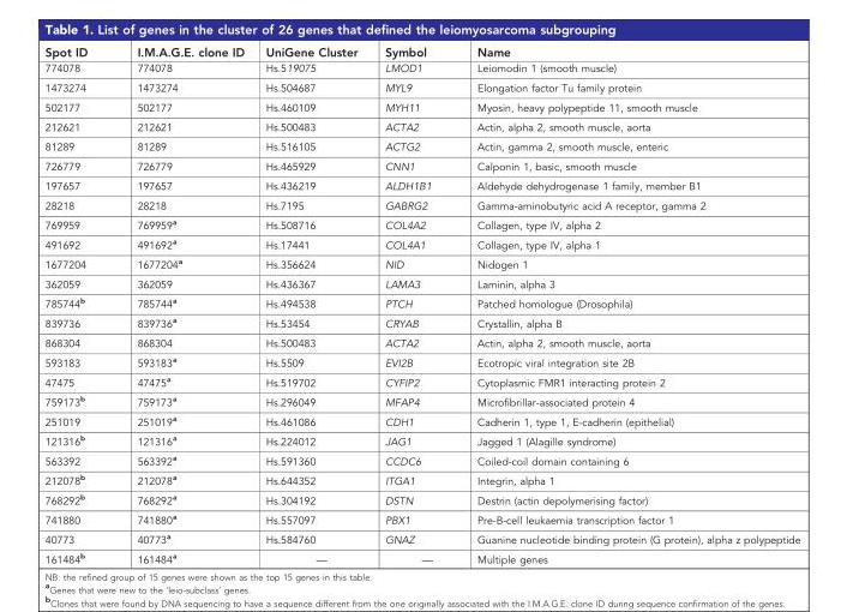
<table><thead><tr><td>Spot ID</td><td>I.M.A.G.E. clone ID</td><td>UniGene Cluster</td><td>Symbol</td><td>Name</td></tr></thead><tbody><tr><td>774078</td><td>774078</td><td>Hs.519075</td><td>LMOD1</td><td>Leiomodin 1 (smooth muscle)</td></tr><tr><td>1473274</td><td>1473274</td><td>Hs.504687</td><td>MYL9</td><td>Elongation factor Tu family protein</td></tr><tr><td>502177</td><td>502177</td><td>Hs.460109</td><td>MYH11</td><td>Myosin, heavy polypeptide 11, smooth muscle</td></tr><tr><td>212621</td><td>212621</td><td>Hs.500483</td><td>ACTA2</td><td>Actin, alpha 2, smooth muscle, aorta</td></tr><tr><td>81289</td><td>81289</td><td>Hs.516105</td><td>ACTG2</td><td>Actin, gamma 2, smooth muscle, enteric</td></tr><tr><td>726779</td><td>726779</td><td>Hs.465929</td><td>CNN1</td><td>Calponin 1, basic, smooth muscle</td></tr><tr><td>197657</td><td>197657</td><td>Hs.436219</td><td>ALDH1B1</td><td>Aldehyde dehydrogenase 1 family, member B1</td></tr><tr><td>28218</td><td>28218</td><td>Hs.7195</td><td>GABRG2</td><td>Gamma-aminobutyric acid A receptor, gamma 2</td></tr><tr><td>769959</td><td>769959<sup>a</sup></td><td>Hs.508716</td><td>COL4A2</td><td>Collagen, type IV, alpha 2</td></tr><tr><td>491692</td><td>491692<sup>a</sup></td><td>Hs.17441</td><td>COL4A1</td><td>Collagen, type IV, alpha 1</td></tr><tr><td>1677204</td><td>1677204<sup>a</sup></td><td>Hs.356624</td><td>NID</td><td>Nidogen 1</td></tr><tr><td>362059</td><td>362059</td><td>Hs.436367</td><td>LAMA3</td><td>Laminin, alpha 3</td></tr><tr><td>785744<sup>b</sup></td><td>785744<sup>a</sup></td><td>Hs.494538</td><td>PTCH</td><td>Patched homologue (Drosophila)</td></tr><tr><td>839736</td><td>839736<sup>a</sup></td><td>Hs.53454</td><td>CRYAB</td><td>Crystallin, alpha B</td></tr><tr><td>868304</td><td>868304</td><td>Hs.500483</td><td>ACTA2</td><td>Actin, alpha 2, smooth muscle, aorta</td></tr><tr><td>593183</td><td>593183<sup>a</sup></td><td>Hs.5509</td><td>EVI2B</td><td>Ecotropic viral integration site 2B</td></tr><tr><td>47475</td><td>47475<sup>a</sup></td><td>Hs.519702</td><td>CYFIP2</td><td>Cytoplasmic FMR1 interacting protein 2</td></tr><tr><td>759173<sup>b</sup></td><td>759173<sup>a</sup></td><td>Hs.296049</td><td>MFAP4</td><td>Microfibrillar-associated protein 4</td></tr><tr><td>251019</td><td>251019<sup>a</sup></td><td>Hs.461086</td><td>CDH1</td><td>Cadherin 1, type 1, E-cadherin (epithelial)</td></tr><tr><td>121316<sup>b</sup></td><td>121316<sup>a</sup></td><td>Hs.224012</td><td>JAG1</td><td>Jagged 1 (Alagille syndrome)</td></tr><tr><td>563392</td><td>563392<sup>a</sup></td><td>Hs.591360</td><td>CCDC6</td><td>Coiled-coil domain containing 6</td></tr><tr><td>212078<sup>b</sup></td><td>212078<sup>a</sup></td><td>Hs.644352</td><td>ITGA1</td><td>Integrin, alpha 1</td></tr><tr><td>768292<sup>b</sup></td><td>768292<sup>a</sup></td><td>Hs.304192</td><td>DSTN</td><td>Destrin (actin depolymerising factor)</td></tr><tr><td>741880</td><td>741880<sup>a</sup></td><td>Hs.557097</td><td>PBX1</td><td>Pre-B-cell leukaemia transcription factor 1</td></tr><tr><td>40773</td><td>40773<sup>a</sup></td><td>Hs.584760</td><td>GNAZ</td><td>Guanine nucleotide binding protein (G protein), alpha z polypeptide</td></tr><tr><td>161484<sup>b</sup></td><td>161484<sup>a</sup></td><td>—</td><td>—</td><td>Multiple genes</td></tr></tbody></table>